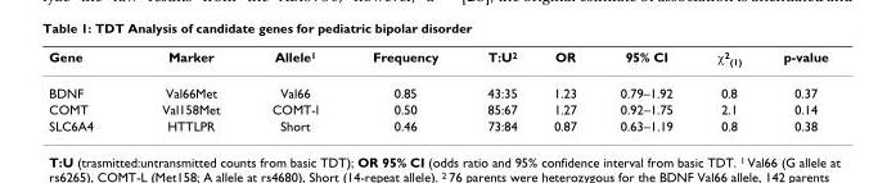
<table><thead><tr><td>Gene</td><td>Marker</td><td>Allele<sup>1</sup></td><td>Frequency</td><td>T:U<sup>2</sup></td><td>OR</td><td>95% CI</td><td>χ<sup>2</sup><sub>(1)</sub></td><td>p-value</td></tr></thead><tbody><tr><td>BDNF</td><td>Val66Met</td><td>Val66</td><td>0.85</td><td>43:35</td><td>1.23</td><td>0.79–1.92</td><td>0.8</td><td>0.37</td></tr><tr><td>COMT</td><td>Val158Met</td><td>COMT-l</td><td>0.50</td><td>85:67</td><td>1.27</td><td>0.92–1.75</td><td>2.1</td><td>0.14</td></tr><tr><td>SLC6A4</td><td>HTTLPR</td><td>Short</td><td>0.46</td><td>73:84</td><td>0.87</td><td>0.63–1.19</td><td>0.8</td><td>0.38</td></tr></tbody></table>